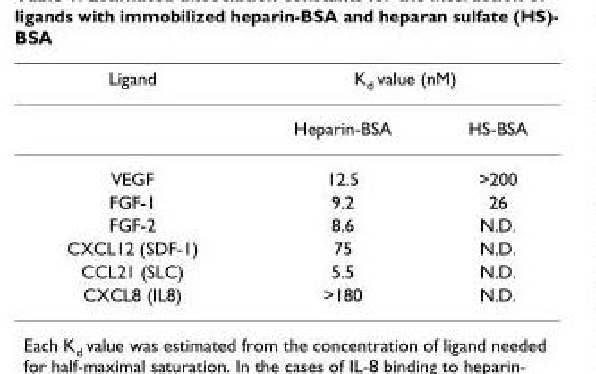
<table><thead><tr><td rowspan="2">Ligand</td><td colspan="2">K<sub>d</sub> value (nM)</td></tr><tr><td>Heparin-BSA</td><td>HS-BSA</td></tr></thead><tbody><tr><td>VEGF</td><td>12.5</td><td>&gt;200</td></tr><tr><td>FGF-1</td><td>9.2</td><td>26</td></tr><tr><td>FGF-2</td><td>8.6</td><td>N.D.</td></tr><tr><td>CXCL12 (SDF-1)</td><td>75</td><td>N.D.</td></tr><tr><td>CCL21 (SLC)</td><td>5.5</td><td>N.D.</td></tr><tr><td>CXCL8 (IL8)</td><td>&gt;180</td><td>N.D.</td></tr></tbody></table>